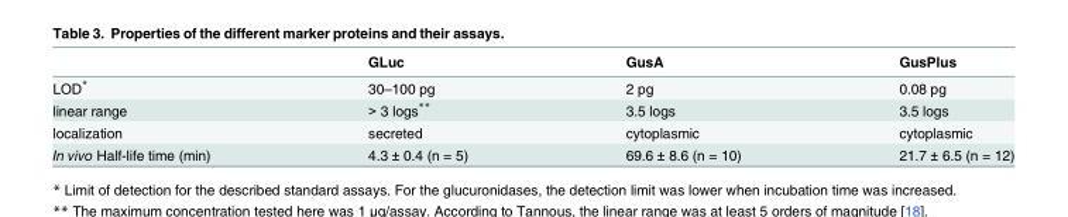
<table><thead><tr><td></td><td>GLuc</td><td>GusA</td><td>GusPlus</td></tr></thead><tbody><tr><td>LOD*</td><td>30–100 pg</td><td>2 pg</td><td>0.08 pg</td></tr><tr><td>linear range</td><td>&gt; 3 logs**</td><td>3.5 logs</td><td>3.5 logs</td></tr><tr><td>localization</td><td>secreted</td><td>cytoplasmic</td><td>cytoplasmic</td></tr><tr><td>In vivo Half-life time (min)</td><td>4.3 ± 0.4 (n = 5)</td><td>69.6 ± 8.6 (n = 10)</td><td>21.7 ± 6.5 (n = 12)</td></tr></tbody></table>